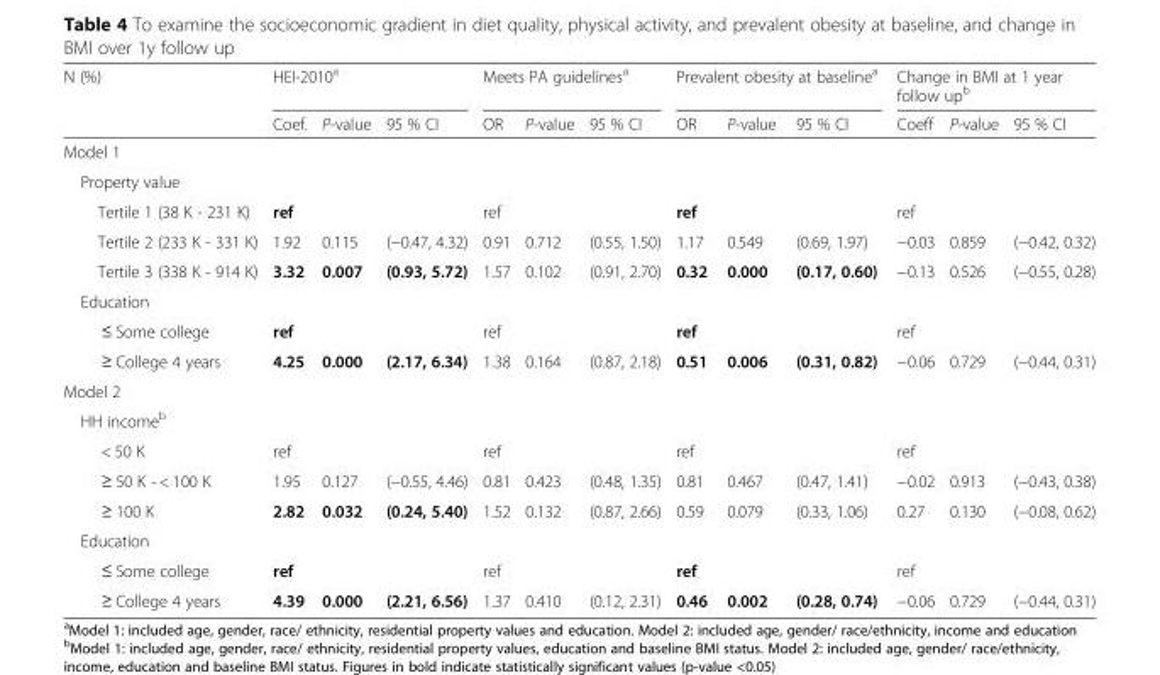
<table><thead><tr><td rowspan="2">N (%)</td><td colspan="3">HEI-2010<sup>a</sup></td><td colspan="3">Meets PA guidelines<sup>a</sup></td><td colspan="3">Prevalent obesity at baseline<sup>a</sup></td><td colspan="3">Change in BMI at 1 year follow up<sup>b</sup></td></tr><tr><td>Coef.</td><td>P-value</td><td>95 % CI</td><td>OR</td><td>P-value</td><td>95 % CI</td><td>OR</td><td>P-value</td><td>95 % CI</td><td>Coeff</td><td>P-value</td><td>95 % CI</td></tr></thead><tbody><tr><td colspan="13">Model 1</td></tr><tr><td colspan="13">Property value</td></tr><tr><td>Tertile 1 (38 K - 231 K)</td><td>ref</td><td></td><td></td><td>ref</td><td></td><td></td><td>ref</td><td></td><td></td><td>ref</td><td></td><td></td></tr><tr><td>Tertile 2 (233 K - 331 K)</td><td>1.92</td><td>0.115</td><td>(−0.47, 4.32)</td><td>0.91</td><td>0.712</td><td>(0.55, 1.50)</td><td>1.17</td><td>0.549</td><td>(0.69, 1.97)</td><td>−0.03</td><td>0.859</td><td>(−0.42, 0.32)</td></tr><tr><td>Tertile 3 (338 K - 914 K)</td><td>3.32</td><td>0.007</td><td>(0.93, 5.72)</td><td>1.57</td><td>0.102</td><td>(0.91, 2.70)</td><td>0.32</td><td>0.000</td><td>(0.17, 0.60)</td><td>−0.13</td><td>0.526</td><td>(−0.55, 0.28)</td></tr><tr><td colspan="13">Education</td></tr><tr><td>≤ Some college</td><td>ref</td><td></td><td></td><td>ref</td><td></td><td></td><td>ref</td><td></td><td></td><td>ref</td><td></td><td></td></tr><tr><td>≥ College 4 years</td><td>4.25</td><td>0.000</td><td>(2.17, 6.34)</td><td>1.38</td><td>0.164</td><td>(0.87, 2.18)</td><td>0.51</td><td>0.006</td><td>(0.31, 0.82)</td><td>−0.06</td><td>0.729</td><td>(−0.44, 0.31)</td></tr><tr><td colspan="13">Model 2</td></tr><tr><td colspan="13">HH income<sup>b</sup></td></tr><tr><td>&lt; 50 K</td><td>ref</td><td></td><td></td><td>ref</td><td></td><td></td><td>ref</td><td></td><td></td><td>ref</td><td></td><td></td></tr><tr><td>≥ 50 K - &lt; 100 K</td><td>1.95</td><td>0.127</td><td>(−0.55, 4.46)</td><td>0.81</td><td>0.423</td><td>(0.48, 1.35)</td><td>0.81</td><td>0.467</td><td>(0.47, 1.41)</td><td>−0.02</td><td>0.913</td><td>(−0.43, 0.38)</td></tr><tr><td>≥ 100 K</td><td>2.82</td><td>0.032</td><td>(0.24, 5.40)</td><td>1.52</td><td>0.132</td><td>(0.87, 2.66)</td><td>0.59</td><td>0.079</td><td>(0.33, 1.06)</td><td>0.27</td><td>0.130</td><td>(−0.08, 0.62)</td></tr><tr><td colspan="13">Education</td></tr><tr><td>≤ Some college</td><td>ref</td><td></td><td></td><td>ref</td><td></td><td></td><td>ref</td><td></td><td></td><td>ref</td><td></td><td></td></tr><tr><td>≥ College 4 years</td><td>4.39</td><td>0.000</td><td>(2.21, 6.56)</td><td>1.37</td><td>0.410</td><td>(0.12, 2.31)</td><td>0.46</td><td>0.002</td><td>(0.28, 0.74)</td><td>−0.06</td><td>0.729</td><td>(−0.44, 0.31)</td></tr></tbody></table>